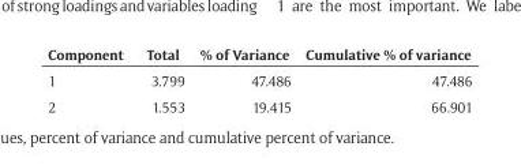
<table><thead><tr><td>Component</td><td>Total</td><td>% of Variance</td><td>Cumulative % of variance</td></tr></thead><tbody><tr><td>1</td><td>3.799</td><td>47.486</td><td>47.486</td></tr><tr><td>2</td><td>1.553</td><td>19.415</td><td>66.901</td></tr></tbody></table>